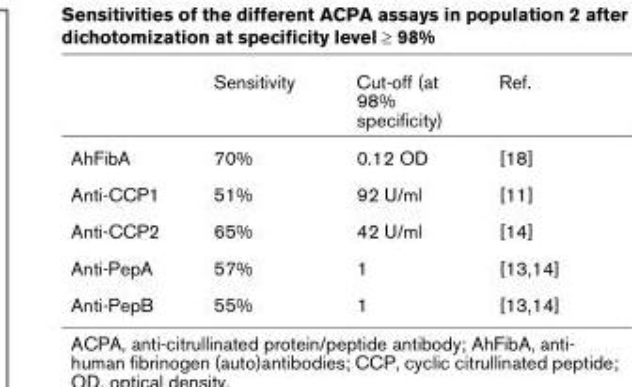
<table><thead><tr><td></td><td>Sensitivity</td><td>Cut-off (at 98% specificity)</td><td>Ref.</td></tr></thead><tbody><tr><td>AhFibA</td><td>70%</td><td>0.12 OD</td><td>[18]</td></tr><tr><td>Anti-CCP1</td><td>51%</td><td>92 U/ml</td><td>[11]</td></tr><tr><td>Anti-CCP2</td><td>65%</td><td>42 U/ml</td><td>[14]</td></tr><tr><td>Anti-PepA</td><td>57%</td><td>1</td><td>[13,14]</td></tr><tr><td>Anti-PepB</td><td>55%</td><td>1</td><td>[13,14]</td></tr></tbody></table>